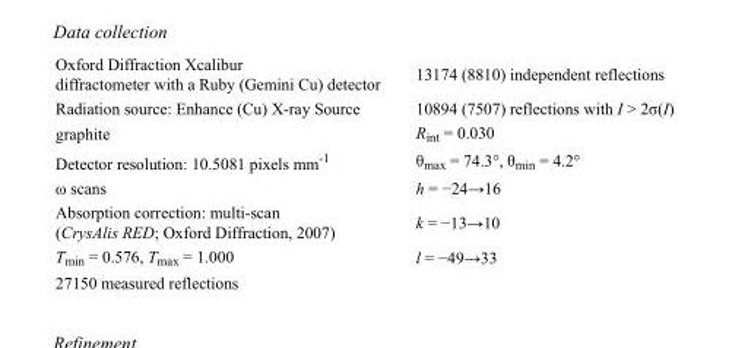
<table><tbody><tr><td>Oxford Diffraction Xcalibur diffractometer with a Ruby (Gemini Cu) detector</td><td>13174 (8810) independent reflections</td></tr><tr><td>Radiation source: Enhance (Cu) X-ray Source</td><td>10894 (7507) reflections with I &gt; 2σ(I)</td></tr><tr><td>graphite</td><td>R<sub>int</sub> = 0.030</td></tr><tr><td>Detector resolution: 10.5081 pixels mm<sup>-1</sup></td><td>θ<sub>max</sub> = 74.3°, θ<sub>min</sub> = 4.2°</td></tr><tr><td>ω scans</td><td>h = −24→16</td></tr><tr><td>Absorption correction: multi-scan (CrysAlis RED; Oxford Diffraction, 2007)</td><td>k = −13→10</td></tr><tr><td>T<sub>min</sub> = 0.576, T<sub>max</sub> = 1.000</td><td>l = −49→33</td></tr><tr><td>27150 measured reflections</td><td></td></tr></tbody></table>